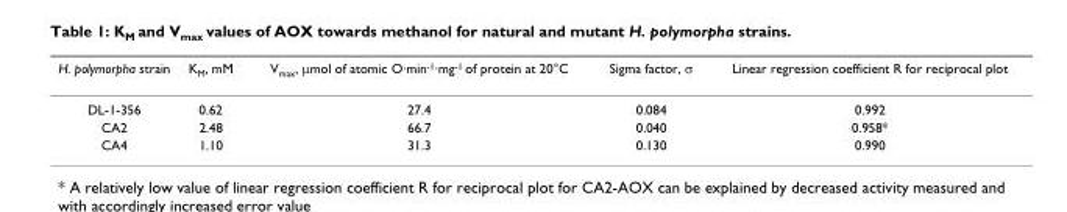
<table><thead><tr><td>H. polymorpha strain</td><td>KM, mM</td><td>V<sub>max</sub>, μmol of atomic O·min<sup>-1</sup>·mg<sup>-1</sup> of protein at 20°C</td><td>Sigma factor, σ</td><td>Linear regression coefficient R for reciprocal plot</td></tr></thead><tbody><tr><td>DL-1-356</td><td>0.62</td><td>27.4</td><td>0.084</td><td>0.992</td></tr><tr><td>CA2</td><td>2.48</td><td>66.7</td><td>0.040</td><td>0.958*</td></tr><tr><td>CA4</td><td>1.10</td><td>31.3</td><td>0.130</td><td>0.990</td></tr></tbody></table>